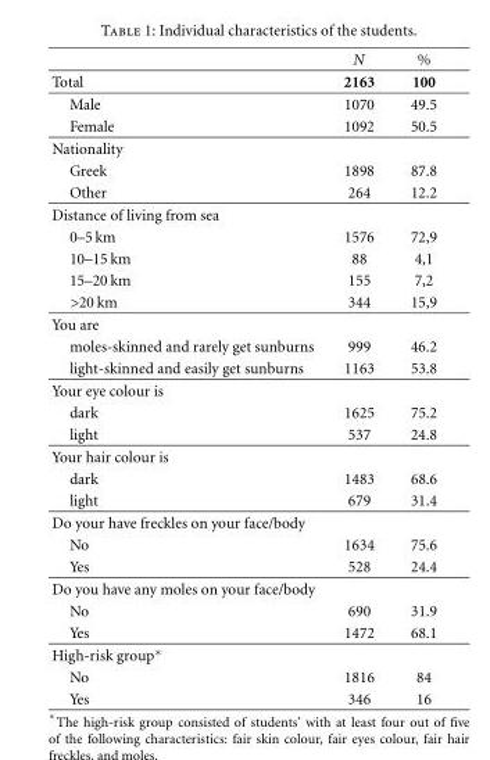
<table><thead><tr><td></td><td>N</td><td>%</td></tr></thead><tbody><tr><td>Total</td><td>2163</td><td>100</td></tr><tr><td>Male</td><td>1070</td><td>49.5</td></tr><tr><td>Female</td><td>1092</td><td>50.5</td></tr><tr><td colspan="3">Nationality</td></tr><tr><td>Greek</td><td>1898</td><td>87.8</td></tr><tr><td>Other</td><td>264</td><td>12.2</td></tr><tr><td colspan="3">Distance of living from sea</td></tr><tr><td>0–5 km</td><td>1576</td><td>72,9</td></tr><tr><td>10–15 km</td><td>88</td><td>4,1</td></tr><tr><td>15–20 km</td><td>155</td><td>7,2</td></tr><tr><td>&gt;20 km</td><td>344</td><td>15,9</td></tr><tr><td colspan="3">You are</td></tr><tr><td>moles-skinned and rarely get sunburns</td><td>999</td><td>46.2</td></tr><tr><td>light-skinned and easily get sunburns</td><td>1163</td><td>53.8</td></tr><tr><td colspan="3">Your eye colour is</td></tr><tr><td>dark</td><td>1625</td><td>75.2</td></tr><tr><td>light</td><td>537</td><td>24.8</td></tr><tr><td colspan="3">Your hair colour is</td></tr><tr><td>dark</td><td>1483</td><td>68.6</td></tr><tr><td>light</td><td>679</td><td>31.4</td></tr><tr><td colspan="3">Do your have freckles on your face/body</td></tr><tr><td>No</td><td>1634</td><td>75.6</td></tr><tr><td>Yes</td><td>528</td><td>24.4</td></tr><tr><td colspan="3">Do you have any moles on your face/body</td></tr><tr><td>No</td><td>690</td><td>31.9</td></tr><tr><td>Yes</td><td>1472</td><td>68.1</td></tr><tr><td colspan="3">High-risk group∗</td></tr><tr><td>No</td><td>1816</td><td>84</td></tr><tr><td>Yes</td><td>346</td><td>16</td></tr></tbody></table>